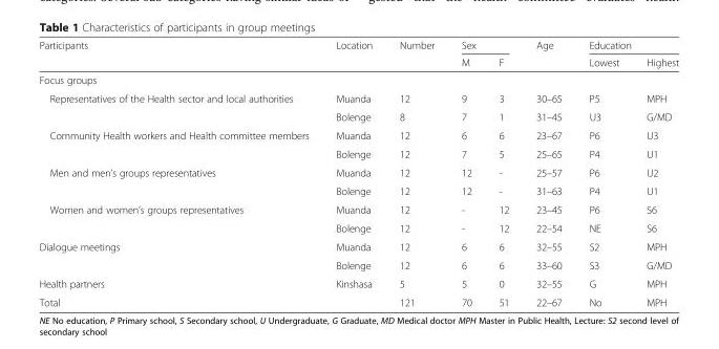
<table><thead><tr><td rowspan="2">Participants</td><td rowspan="2">Location</td><td rowspan="2">Number</td><td colspan="2">Sex</td><td rowspan="2">Age</td><td colspan="2">Education</td></tr><tr><td>M</td><td>F</td><td>Lowest</td><td>Highest</td></tr></thead><tbody><tr><td colspan="8">Focus groups</td></tr><tr><td rowspan="2">Representatives of the Health sector and local authorities</td><td>Muanda</td><td>12</td><td>9</td><td>3</td><td>30–65</td><td>P5</td><td>MPH</td></tr><tr><td>Bolenge</td><td>8</td><td>7</td><td>1</td><td>31–45</td><td>U3</td><td>G/MD</td></tr><tr><td rowspan="2">Community Health workers and Health committee members</td><td>Muanda</td><td>12</td><td>6</td><td>6</td><td>23–67</td><td>P6</td><td>U3</td></tr><tr><td>Bolenge</td><td>12</td><td>7</td><td>5</td><td>25–65</td><td>P4</td><td>U1</td></tr><tr><td rowspan="2">Men and men’s groups representatives</td><td>Muanda</td><td>12</td><td>12</td><td>-</td><td>25–57</td><td>P6</td><td>U2</td></tr><tr><td>Bolenge</td><td>12</td><td>12</td><td>-</td><td>31–63</td><td>P4</td><td>U1</td></tr><tr><td rowspan="2">Women and women’s groups representatives</td><td>Muanda</td><td>12</td><td>-</td><td>12</td><td>23–45</td><td>P6</td><td>S6</td></tr><tr><td>Bolenge</td><td>12</td><td>-</td><td>12</td><td>22–54</td><td>NE</td><td>S6</td></tr><tr><td rowspan="2">Dialogue meetings</td><td>Muanda</td><td>12</td><td>6</td><td>6</td><td>32–55</td><td>S2</td><td>MPH</td></tr><tr><td>Bolenge</td><td>12</td><td>6</td><td>6</td><td>33–60</td><td>S3</td><td>G/MD</td></tr><tr><td>Health partners</td><td>Kinshasa</td><td>5</td><td>5</td><td>0</td><td>32–55</td><td>G</td><td>MPH</td></tr><tr><td>Total</td><td></td><td>121</td><td>70</td><td>51</td><td>22–67</td><td>No</td><td>MPH</td></tr></tbody></table>